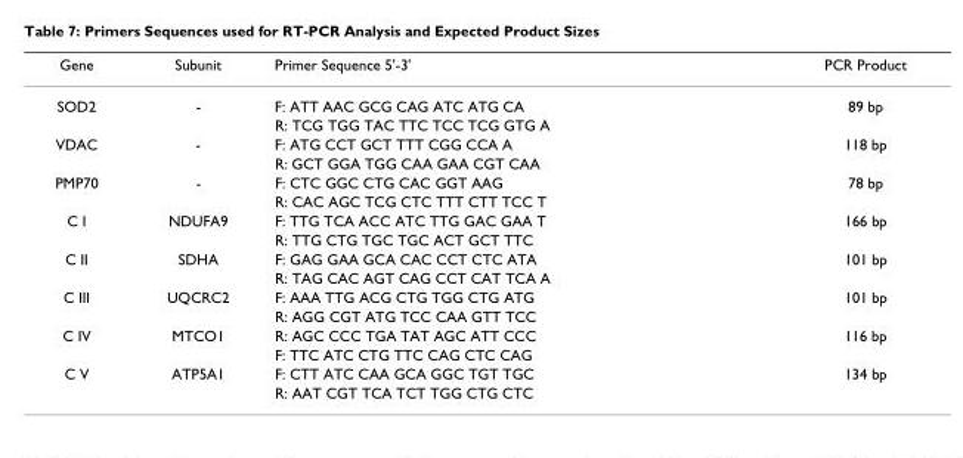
<table><thead><tr><td>Gene</td><td>Subunit</td><td>Primer Sequence 5&#x27;-3&#x27;</td><td>PCR Product</td></tr></thead><tbody><tr><td rowspan="2">SOD2</td><td>-</td><td>F: ATT AAC GCG CAG ATC ATG CA</td><td>89 bp</td></tr><tr><td></td><td>R: TCG TGG TAC TTC TCC TCG GTG A</td><td></td></tr><tr><td rowspan="2">VDAC</td><td>-</td><td>F: ATG CCT GCT TTT CGG CCA A</td><td>118 bp</td></tr><tr><td></td><td>R: GCT GGA TGG CAA GAA CGT CAA</td><td></td></tr><tr><td rowspan="2">PMP70</td><td>-</td><td>F: CTC GGC CTG CAC GGT AAG</td><td>78 bp</td></tr><tr><td></td><td>R: CAC AGC TCG CTC TTT CTT TCC T</td><td></td></tr><tr><td rowspan="2">C I</td><td>NDUFA9</td><td>F: TTG TCA ACC ATC TTG GAC GAA T</td><td>166 bp</td></tr><tr><td></td><td>R: TTG CTG TGC TGC ACT GCT TTC</td><td></td></tr><tr><td rowspan="2">C II</td><td>SDHA</td><td>F: GAG GAA GCA CAC CCT CTC ATA</td><td>101 bp</td></tr><tr><td></td><td>R: TAG CAC AGT CAG CCT CAT TCA A</td><td></td></tr><tr><td rowspan="2">C III</td><td>UQCRC2</td><td>F: AAA TTG ACG CTG TGG CTG ATG</td><td>101 bp</td></tr><tr><td></td><td>R: AGG CGT ATG TCC CAA GTT TCC</td><td></td></tr><tr><td rowspan="2">C IV</td><td>MTCO1</td><td>R: AGC CCC TGA TAT AGC ATT CCC</td><td>116 bp</td></tr><tr><td></td><td>F: TTC ATC CTG TTC CAG CTC CAG</td><td></td></tr><tr><td rowspan="2">C V</td><td>ATP5A1</td><td>F: CTT ATC CAA GCA GGC TGT TGC</td><td>134 bp</td></tr><tr><td></td><td>R: AAT CGT TCA TCT TGG CTG CTC</td><td></td></tr></tbody></table>